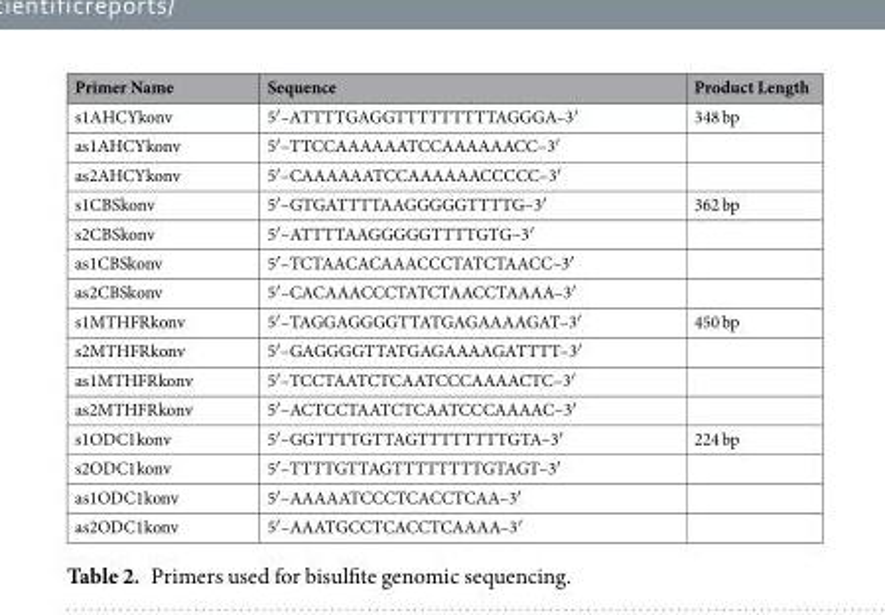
<table><thead><tr><td>Primer Name</td><td>Sequence</td><td>Product Length</td></tr></thead><tbody><tr><td>s1AHCYkonv</td><td>5′–ATTTTGAGGTTTTTTTTTAGGGA–3′</td><td>348 bp</td></tr><tr><td>as1AHCYkonv</td><td>5′–TTCCAAAAAATCCAAAAAACC–3′</td><td></td></tr><tr><td>as2AHCYkonv</td><td>5′–CAAAAAATCCAAAAAACCCCC–3′</td><td></td></tr><tr><td>s1CBSkonv</td><td>5′–GTGATTTTAAGGGGGTTTTG–3′</td><td>362 bp</td></tr><tr><td>s2CBSkonv</td><td>5′–ATTTTAAGGGGGTTTTGTG–3′</td><td></td></tr><tr><td>as1CBSkonv</td><td>5′–TCTAACACAAACCCTATCTAACC–3′</td><td></td></tr><tr><td>as2CBSkonv</td><td>5′–CACAAACCCTATCTAACCTAAAA–3′</td><td></td></tr><tr><td>s1MTHFRkonv</td><td>5′–TAGGAGGGGTTATGAGAAAAGAT–3′</td><td>450 bp</td></tr><tr><td>s2MTHFRkonv</td><td>5′–GAGGGGTTATGAGAAAAGATTTT–3′</td><td></td></tr><tr><td>as1MTHFRkonv</td><td>5′–TCCTAATCTCAATCCCAAAACTC–3′</td><td></td></tr><tr><td>as2MTHFRkonv</td><td>5′–ACTCCTAATCTCAATCCCAAAAC–3′</td><td></td></tr><tr><td>s1ODC1konv</td><td>5′–GGTTTTGTTAGTTTTTTTTGTA–3′</td><td>224 bp</td></tr><tr><td>s2ODC1konv</td><td>5′–TTTTGTTAGTTTTTTTTGTAGT–3′</td><td></td></tr><tr><td>as1ODC1konv</td><td>5′–AAAAATCCCTCACCTCAA–3′</td><td></td></tr><tr><td>as2ODC1konv</td><td>5′–AAATGCCTCACCTCAAAA–3′</td><td></td></tr></tbody></table>